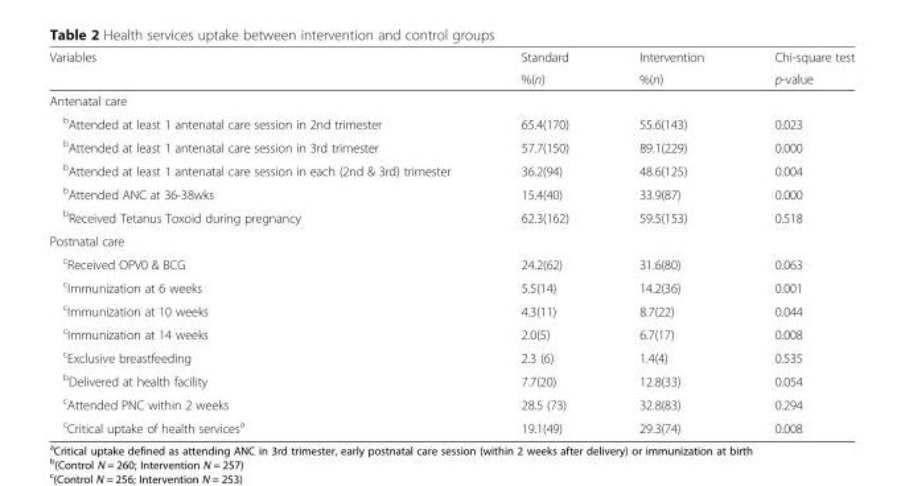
<table><thead><tr><td rowspan="2">Variables</td><td rowspan="2">Standard %(n)</td><td rowspan="2">Intervention %(n)</td><td rowspan="2">Chi-square test p-value</td></tr><tr></tr></thead><tbody><tr><td colspan="4">Antenatal care</td></tr><tr><td><sup>b</sup>Attended at least 1 antenatal care session in 2nd trimester</td><td>65.4(170)</td><td>55.6(143)</td><td>0.023</td></tr><tr><td><sup>b</sup>Attended at least 1 antenatal care session in 3rd trimester</td><td>57.7(150)</td><td>89.1(229)</td><td>0.000</td></tr><tr><td><sup>b</sup>Attended at least 1 antenatal care session in each (2nd &amp; 3rd) trimester</td><td>36.2(94)</td><td>48.6(125)</td><td>0.004</td></tr><tr><td><sup>b</sup>Attended ANC at 36-38wks</td><td>15.4(40)</td><td>33.9(87)</td><td>0.000</td></tr><tr><td><sup>b</sup>Received Tetanus Toxoid during pregnancy</td><td>62.3(162)</td><td>59.5(153)</td><td>0.518</td></tr><tr><td colspan="4">Postnatal care</td></tr><tr><td><sup>c</sup>Received OPV0 &amp; BCG</td><td>24.2(62)</td><td>31.6(80)</td><td>0.063</td></tr><tr><td><sup>c</sup>Immunization at 6 weeks</td><td>5.5(14)</td><td>14.2(36)</td><td>0.001</td></tr><tr><td><sup>c</sup>Immunization at 10 weeks</td><td>4.3(11)</td><td>8.7(22)</td><td>0.044</td></tr><tr><td><sup>c</sup>Immunization at 14 weeks</td><td>2.0(5)</td><td>6.7(17)</td><td>0.008</td></tr><tr><td><sup>c</sup>Exclusive breastfeeding</td><td>2.3 (6)</td><td>1.4(4)</td><td>0.535</td></tr><tr><td><sup>b</sup>Delivered at health facility</td><td>7.7(20)</td><td>12.8(33)</td><td>0.054</td></tr><tr><td><sup>c</sup>Attended PNC within 2 weeks</td><td>28.5 (73)</td><td>32.8(83)</td><td>0.294</td></tr><tr><td><sup>c</sup>Critical uptake of health services<sup>a</sup></td><td>19.1(49)</td><td>29.3(74)</td><td>0.008</td></tr></tbody></table>